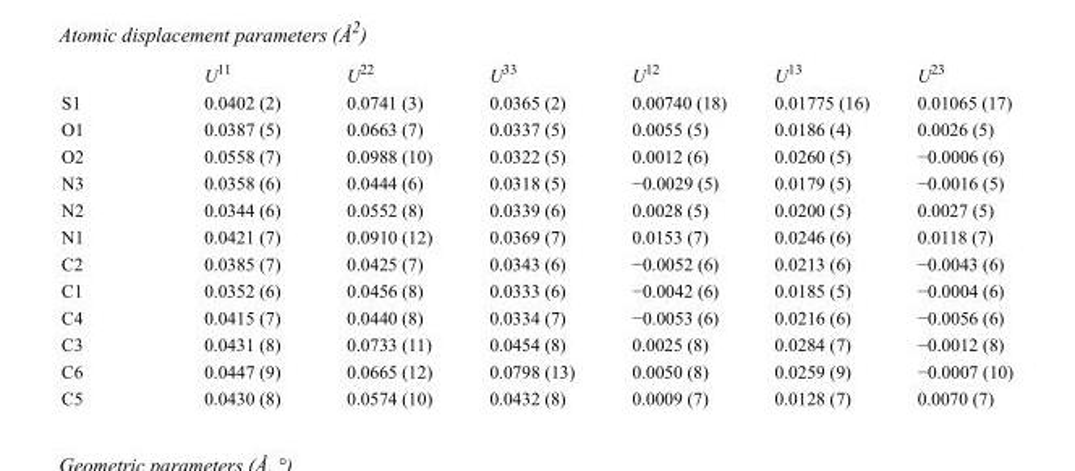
<table><thead><tr><td></td><td>U<sup>11</sup></td><td>U<sup>22</sup></td><td>U<sup>33</sup></td><td>U<sup>12</sup></td><td>U<sup>13</sup></td><td>U<sup>23</sup></td></tr></thead><tbody><tr><td>S1</td><td>0.0402 (2)</td><td>0.0741 (3)</td><td>0.0365 (2)</td><td>0.00740 (18)</td><td>0.01775 (16)</td><td>0.01065 (17)</td></tr><tr><td>O1</td><td>0.0387 (5)</td><td>0.0663 (7)</td><td>0.0337 (5)</td><td>0.0055 (5)</td><td>0.0186 (4)</td><td>0.0026 (5)</td></tr><tr><td>O2</td><td>0.0558 (7)</td><td>0.0988 (10)</td><td>0.0322 (5)</td><td>0.0012 (6)</td><td>0.0260 (5)</td><td>−0.0006 (6)</td></tr><tr><td>N3</td><td>0.0358 (6)</td><td>0.0444 (6)</td><td>0.0318 (5)</td><td>−0.0029 (5)</td><td>0.0179 (5)</td><td>−0.0016 (5)</td></tr><tr><td>N2</td><td>0.0344 (6)</td><td>0.0552 (8)</td><td>0.0339 (6)</td><td>0.0028 (5)</td><td>0.0200 (5)</td><td>0.0027 (5)</td></tr><tr><td>N1</td><td>0.0421 (7)</td><td>0.0910 (12)</td><td>0.0369 (7)</td><td>0.0153 (7)</td><td>0.0246 (6)</td><td>0.0118 (7)</td></tr><tr><td>C2</td><td>0.0385 (7)</td><td>0.0425 (7)</td><td>0.0343 (6)</td><td>−0.0052 (6)</td><td>0.0213 (6)</td><td>−0.0043 (6)</td></tr><tr><td>C1</td><td>0.0352 (6)</td><td>0.0456 (8)</td><td>0.0333 (6)</td><td>−0.0042 (6)</td><td>0.0185 (5)</td><td>−0.0004 (6)</td></tr><tr><td>C4</td><td>0.0415 (7)</td><td>0.0440 (8)</td><td>0.0334 (7)</td><td>−0.0053 (6)</td><td>0.0216 (6)</td><td>−0.0056 (6)</td></tr><tr><td>C3</td><td>0.0431 (8)</td><td>0.0733 (11)</td><td>0.0454 (8)</td><td>0.0025 (8)</td><td>0.0284 (7)</td><td>−0.0012 (8)</td></tr><tr><td>C6</td><td>0.0447 (9)</td><td>0.0665 (12)</td><td>0.0798 (13)</td><td>0.0050 (8)</td><td>0.0259 (9)</td><td>−0.0007 (10)</td></tr><tr><td>C5</td><td>0.0430 (8)</td><td>0.0574 (10)</td><td>0.0432 (8)</td><td>0.0009 (7)</td><td>0.0128 (7)</td><td>0.0070 (7)</td></tr></tbody></table>